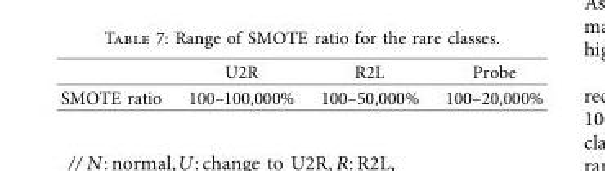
<table><thead><tr><td></td><td>U2R</td><td>R2L</td><td>Probe</td></tr></thead><tbody><tr><td>SMOTE ratio</td><td>100–100,000%</td><td>100–50,000%</td><td>100–20,000%</td></tr></tbody></table>